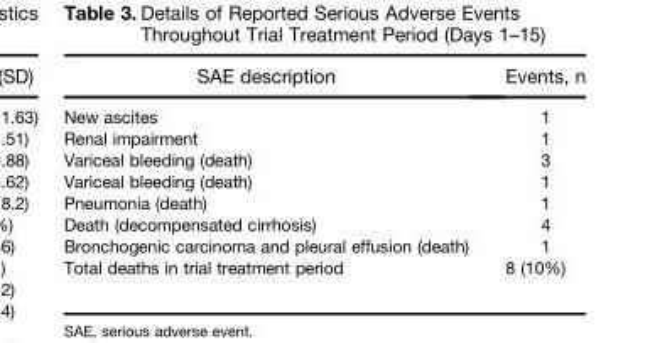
<table><thead><tr><td>SAE description</td><td>Events, n</td></tr></thead><tbody><tr><td>New ascites</td><td>1</td></tr><tr><td>Renal impairment</td><td>1</td></tr><tr><td>Variceal bleeding (death)</td><td>3</td></tr><tr><td>Variceal bleeding (death)</td><td>1</td></tr><tr><td>Pneumonia (death)</td><td>1</td></tr><tr><td>Death (decompensated cirrhosis)</td><td>4</td></tr><tr><td>Bronchogenic carcinoma and pleural effusion (death)</td><td>1</td></tr><tr><td>Total deaths in trial treatment period</td><td>8 (10%)</td></tr></tbody></table>